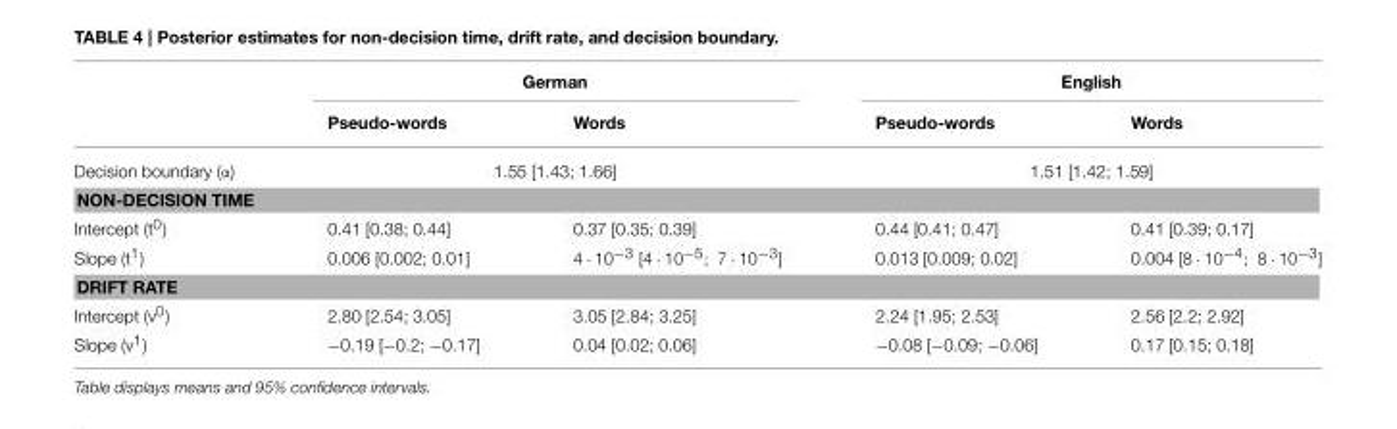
<table><thead><tr><td rowspan="2"></td><td colspan="2">German</td><td colspan="2">English</td></tr><tr><td>Pseudo-words</td><td>Words</td><td>Pseudo-words</td><td>Words</td></tr></thead><tbody><tr><td>Decision boundary (α)</td><td colspan="2">1.55 [1.43; 1.66]</td><td colspan="2">1.51 [1.42; 1.59]</td></tr><tr><td colspan="5">NON-DECISION TIME</td></tr><tr><td>Intercept (t<sup>0</sup>)</td><td>0.41 [0.38; 0.44]</td><td>0.37 [0.35; 0.39]</td><td>0.44 [0.41; 0.47]</td><td>0.41 [0.39; 0.17]</td></tr><tr><td>Slope (t<sup>1</sup>)</td><td>0.006 [0.002; 0.01]</td><td>4 · 10<sup>−3</sup> [4 · 10<sup>−5</sup>; 7 · 10<sup>−3</sup>]</td><td>0.013 [0.009; 0.02]</td><td>0.004 [8 · 10<sup>−4</sup>; 8 · 10<sup>−3</sup>]</td></tr><tr><td colspan="5">DRIFT RATE</td></tr><tr><td>Intercept (v<sup>0</sup>)</td><td>2.80 [2.54; 3.05]</td><td>3.05 [2.84; 3.25]</td><td>2.24 [1.95; 2.53]</td><td>2.56 [2.2; 2.92]</td></tr><tr><td>Slope (v<sup>1</sup>)</td><td>−0.19 [−0.2; −0.17]</td><td>0.04 [0.02; 0.06]</td><td>−0.08 [−0.09; −0.06]</td><td>0.17 [0.15; 0.18]</td></tr></tbody></table>